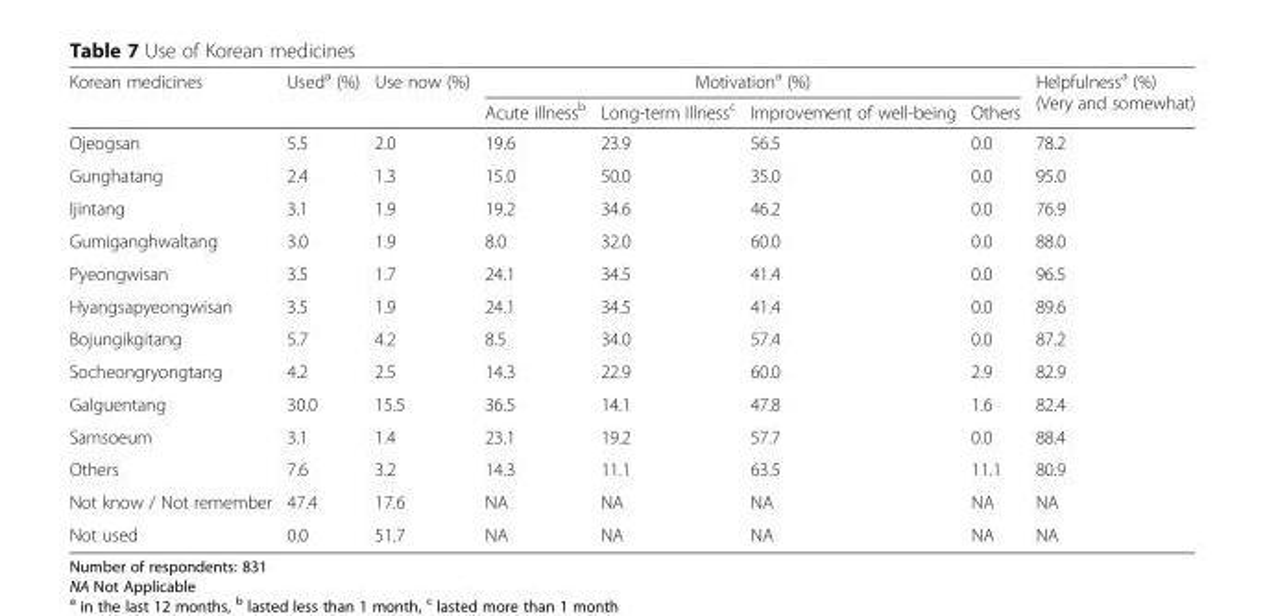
<table><thead><tr><td rowspan="2">Korean medicines</td><td rowspan="2">Used<sup>a</sup> (%)</td><td rowspan="2">Use now (%)</td><td colspan="4">Motivation<sup>a</sup> (%)</td><td rowspan="2">Helpfulness<sup>a</sup> (%) (Very and somewhat)</td></tr><tr><td>Acute illness<sup>b</sup></td><td>Long-term Illness<sup>c</sup></td><td>Improvement of well-being</td><td>Others</td></tr></thead><tbody><tr><td>Ojeogsan</td><td>5.5</td><td>2.0</td><td>19.6</td><td>23.9</td><td>56.5</td><td>0.0</td><td>78.2</td></tr><tr><td>Gunghatang</td><td>2.4</td><td>1.3</td><td>15.0</td><td>50.0</td><td>35.0</td><td>0.0</td><td>95.0</td></tr><tr><td>Ijintang</td><td>3.1</td><td>1.9</td><td>19.2</td><td>34.6</td><td>46.2</td><td>0.0</td><td>76.9</td></tr><tr><td>Gumiganghwaltang</td><td>3.0</td><td>1.9</td><td>8.0</td><td>32.0</td><td>60.0</td><td>0.0</td><td>88.0</td></tr><tr><td>Pyeongwisan</td><td>3.5</td><td>1.7</td><td>24.1</td><td>34.5</td><td>41.4</td><td>0.0</td><td>96.5</td></tr><tr><td>Hyangsapyeongwisan</td><td>3.5</td><td>1.9</td><td>24.1</td><td>34.5</td><td>41.4</td><td>0.0</td><td>89.6</td></tr><tr><td>Bojungikgitang</td><td>5.7</td><td>4.2</td><td>8.5</td><td>34.0</td><td>57.4</td><td>0.0</td><td>87.2</td></tr><tr><td>Socheongryongtang</td><td>4.2</td><td>2.5</td><td>14.3</td><td>22.9</td><td>60.0</td><td>2.9</td><td>82.9</td></tr><tr><td>Galguentang</td><td>30.0</td><td>15.5</td><td>36.5</td><td>14.1</td><td>47.8</td><td>1.6</td><td>82.4</td></tr><tr><td>Samsoeum</td><td>3.1</td><td>1.4</td><td>23.1</td><td>19.2</td><td>57.7</td><td>0.0</td><td>88.4</td></tr><tr><td>Others</td><td>7.6</td><td>3.2</td><td>14.3</td><td>11.1</td><td>63.5</td><td>11.1</td><td>80.9</td></tr><tr><td>Not know / Not remember</td><td>47.4</td><td>17.6</td><td>NA</td><td>NA</td><td>NA</td><td>NA</td><td>NA</td></tr><tr><td>Not used</td><td>0.0</td><td>51.7</td><td>NA</td><td>NA</td><td>NA</td><td>NA</td><td>NA</td></tr></tbody></table>